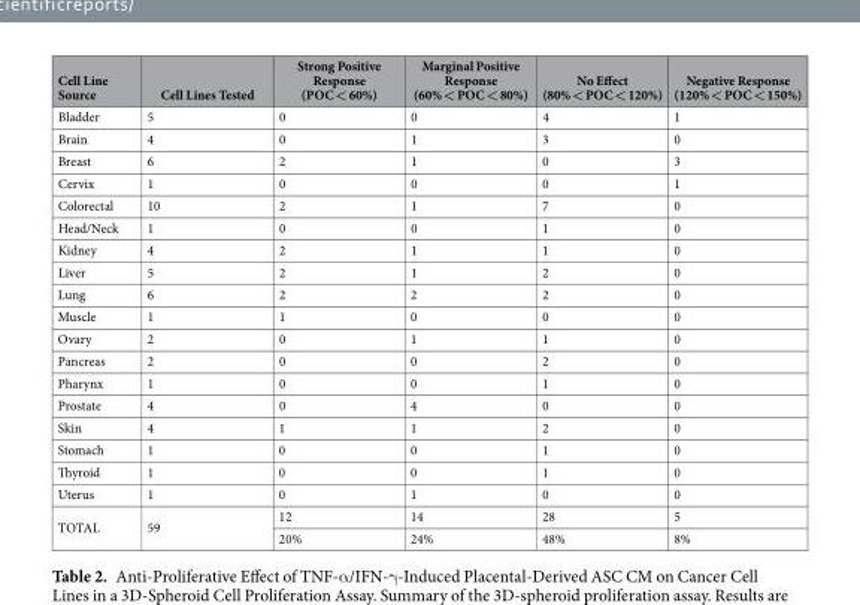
<table><thead><tr><td>Cell Line Source</td><td>Cell Lines Tested</td><td>Strong Positive Response (POC &lt; 60%)</td><td>Marginal Positive Response (60% &lt; POC &lt; 80%)</td><td>No Effect (80% &lt; POC &lt; 120%)</td><td>Negative Response (120% &lt; POC &lt; 150%)</td></tr></thead><tbody><tr><td>Bladder</td><td>5</td><td>0</td><td>0</td><td>4</td><td>1</td></tr><tr><td>Brain</td><td>4</td><td>0</td><td>1</td><td>3</td><td>0</td></tr><tr><td>Breast</td><td>6</td><td>2</td><td>1</td><td>0</td><td>3</td></tr><tr><td>Cervix</td><td>1</td><td>0</td><td>0</td><td>0</td><td>1</td></tr><tr><td>Colorectal</td><td>10</td><td>2</td><td>1</td><td>7</td><td>0</td></tr><tr><td>Head/Neck</td><td>1</td><td>0</td><td>0</td><td>1</td><td>0</td></tr><tr><td>Kidney</td><td>4</td><td>2</td><td>1</td><td>1</td><td>0</td></tr><tr><td>Liver</td><td>5</td><td>2</td><td>1</td><td>2</td><td>0</td></tr><tr><td>Lung</td><td>6</td><td>2</td><td>2</td><td>2</td><td>0</td></tr><tr><td>Muscle</td><td>1</td><td>1</td><td>0</td><td>0</td><td>0</td></tr><tr><td>Ovary</td><td>2</td><td>0</td><td>1</td><td>1</td><td>0</td></tr><tr><td>Pancreas</td><td>2</td><td>0</td><td>0</td><td>2</td><td>0</td></tr><tr><td>Pharynx</td><td>1</td><td>0</td><td>0</td><td>1</td><td>0</td></tr><tr><td>Prostate</td><td>4</td><td>0</td><td>4</td><td>0</td><td>0</td></tr><tr><td>Skin</td><td>4</td><td>1</td><td>1</td><td>2</td><td>0</td></tr><tr><td>Stomach</td><td>1</td><td>0</td><td>0</td><td>1</td><td>0</td></tr><tr><td>Thyroid</td><td>1</td><td>0</td><td>0</td><td>1</td><td>0</td></tr><tr><td>Uterus</td><td>1</td><td>0</td><td>1</td><td>0</td><td>0</td></tr><tr><td rowspan="2">TOTAL</td><td rowspan="2">59</td><td>12</td><td>14</td><td>28</td><td>5</td></tr><tr><td>20%</td><td>24%</td><td>48%</td><td>8%</td></tr></tbody></table>